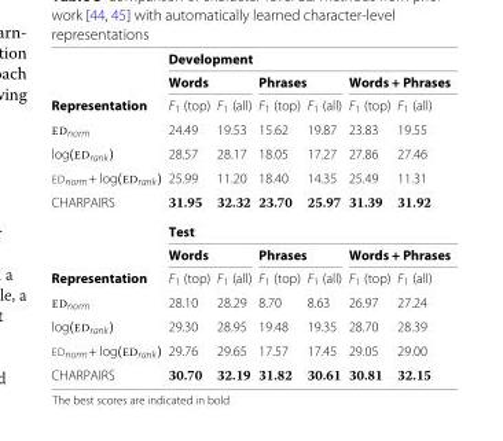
<table><thead><tr><td rowspan="3">Representation</td><td colspan="6">Development</td></tr><tr><td colspan="2">Words</td><td colspan="2">Phrases</td><td colspan="2">Words + Phrases</td></tr><tr><td>F<sub>1</sub> (top)</td><td>F<sub>1</sub> (all)</td><td>F<sub>1</sub> (top)</td><td>F<sub>1</sub> (all)</td><td>F<sub>1</sub> (top)</td><td>F<sub>1</sub> (all)</td></tr></thead><tbody><tr><td>ED<sub>norm</sub></td><td>24.49</td><td>19.53</td><td>15.62</td><td>19.87</td><td>23.83</td><td>19.55</td></tr><tr><td>log(ED<sub>rank</sub>)</td><td>28.57</td><td>28.17</td><td>18.05</td><td>17.27</td><td>27.86</td><td>27.46</td></tr><tr><td>ED<sub>norm</sub>+ log(ED<sub>rank</sub>)</td><td>25.99</td><td>11.20</td><td>18.40</td><td>14.35</td><td>25.49</td><td>11.31</td></tr><tr><td rowspan="3">CHARPAIRS</td><td>31.95</td><td>32.32</td><td>23.70</td><td>25.97</td><td>31.39</td><td>31.92</td></tr><tr><td colspan="6">Test</td></tr><tr><td colspan="2">Words</td><td colspan="2">Phrases</td><td colspan="2">Words + Phrases</td></tr><tr><td>Representation</td><td>F<sub>1</sub> (top)</td><td>F<sub>1</sub> (all)</td><td>F<sub>1</sub> (top)</td><td>F<sub>1</sub> (all)</td><td>F<sub>1</sub> (top)</td><td>F<sub>1</sub> (all)</td></tr><tr><td>ED<sub>norm</sub></td><td>28.10</td><td>28.29</td><td>8.70</td><td>8.63</td><td>26.97</td><td>27.24</td></tr><tr><td>log(ED<sub>rank</sub>)</td><td>29.30</td><td>28.95</td><td>19.48</td><td>19.35</td><td>28.70</td><td>28.39</td></tr><tr><td>ED<sub>norm</sub>+ log(ED<sub>rank</sub>)</td><td>29.76</td><td>29.65</td><td>17.57</td><td>17.45</td><td>29.05</td><td>29.00</td></tr><tr><td>CHARPAIRS</td><td>30.70</td><td>32.19</td><td>31.82</td><td>30.61</td><td>30.81</td><td>32.15</td></tr></tbody></table>